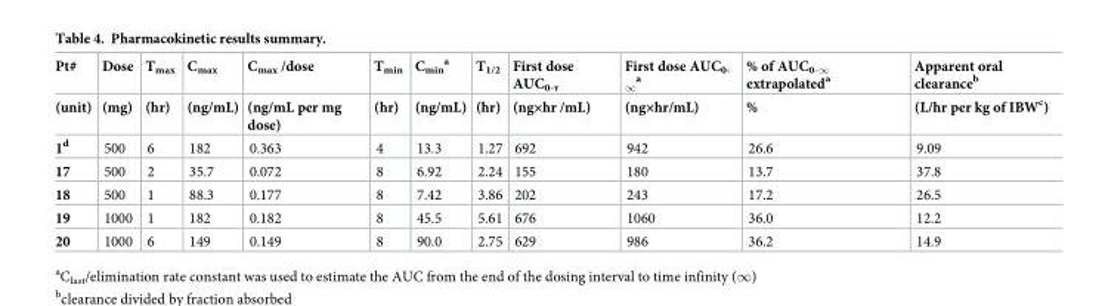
<table><thead><tr><td rowspan="2">Pt# (unit)</td><td rowspan="2">Dose (mg)</td><td rowspan="2">T<sub>max</sub> (hr)</td><td rowspan="2">C<sub>max</sub> (ng/mL)</td><td rowspan="2">C<sub>max</sub> /dose (ng/mL per mg dose)</td><td rowspan="2">T<sub>min</sub> (hr)</td><td rowspan="2">C<sub>min</sub> <sup>a</sup> (ng/mL)</td><td rowspan="2">T<sub>1/2</sub> (hr)</td><td rowspan="2">First dose AUC<sub>0-τ</sub> (ng×hr /mL)</td><td rowspan="2">First dose AUC<sub>0- ∞</sub> <sup>a</sup> (ng×hr/mL)</td><td rowspan="2">% of AUC<sub>0-∞</sub> extrapolated<sup>a</sup> %</td><td rowspan="2">Apparent oral clearance<sup>b</sup> (L/hr per kg of IBW<sup>c</sup>)</td></tr><tr></tr></thead><tbody><tr><td>1<sup>d</sup></td><td>500</td><td>6</td><td>182</td><td>0.363</td><td>4</td><td>13.3</td><td>1.27</td><td>692</td><td>942</td><td>26.6</td><td>9.09</td></tr><tr><td>17</td><td>500</td><td>2</td><td>35.7</td><td>0.072</td><td>8</td><td>6.92</td><td>2.24</td><td>155</td><td>180</td><td>13.7</td><td>37.8</td></tr><tr><td>18</td><td>500</td><td>1</td><td>88.3</td><td>0.177</td><td>8</td><td>7.42</td><td>3.86</td><td>202</td><td>243</td><td>17.2</td><td>26.5</td></tr><tr><td>19</td><td>1000</td><td>1</td><td>182</td><td>0.182</td><td>8</td><td>45.5</td><td>5.61</td><td>676</td><td>1060</td><td>36.0</td><td>12.2</td></tr><tr><td>20</td><td>1000</td><td>6</td><td>149</td><td>0.149</td><td>8</td><td>90.0</td><td>2.75</td><td>629</td><td>986</td><td>36.2</td><td>14.9</td></tr></tbody></table>